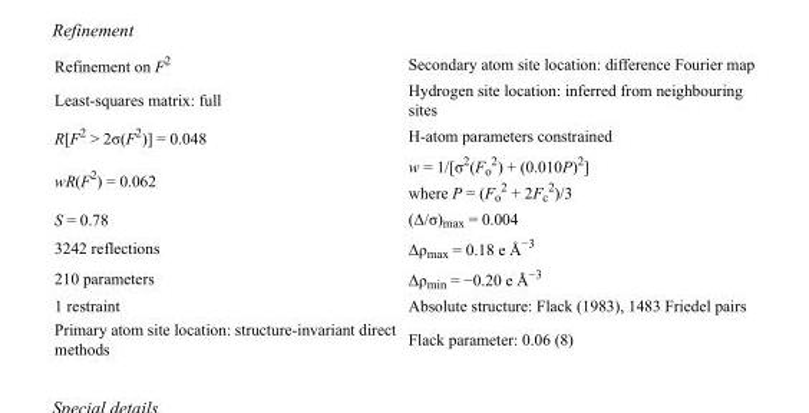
<table><tbody><tr><td>Refinement on F<sup>2</sup></td><td>Secondary atom site location: difference Fourier map</td></tr><tr><td>Least-squares matrix: full</td><td>Hydrogen site location: inferred from neighbouring sites</td></tr><tr><td>R[F<sup>2</sup> &gt; 2σ(F<sup>2</sup>)] = 0.048</td><td>H-atom parameters constrained</td></tr><tr><td>wR(F<sup>2</sup>) = 0.062</td><td>w = 1/[σ<sup>2</sup>(F<sub>o</sub> <sup>2</sup>) + (0.010P)<sup>2</sup>] where P = (F<sub>o</sub> <sup>2</sup> + 2F<sub>c</sub> <sup>2</sup>)/3</td></tr><tr><td>S = 0.78</td><td>(Δ/σ)<sub>max</sub> = 0.004</td></tr><tr><td>3242 reflections</td><td>Δρ<sub>max</sub> = 0.18 e Å<sup>−3</sup></td></tr><tr><td>210 parameters</td><td>Δρ<sub>min</sub> = −0.20 e Å<sup>−3</sup></td></tr><tr><td>1 restraint</td><td>Absolute structure: Flack (1983), 1483 Friedel pairs</td></tr><tr><td>Primary atom site location: structure-invariant direct methods</td><td>Flack parameter: 0.06 (8)</td></tr></tbody></table>